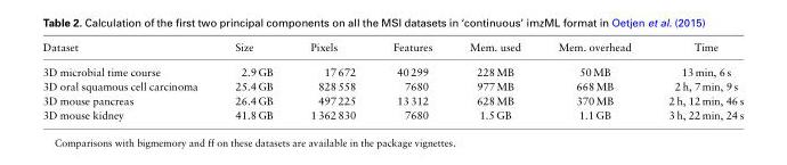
<table><thead><tr><td>Dataset</td><td>Size</td><td>Pixels</td><td>Features</td><td>Mem. used</td><td>Mem. overhead</td><td>Time</td></tr></thead><tbody><tr><td>3D microbial time course</td><td>2.9 GB</td><td>17 672</td><td>40 299</td><td>228 MB</td><td>50 MB</td><td>13 min, 6 s</td></tr><tr><td>3D oral squamous cell carcinoma</td><td>25.4 GB</td><td>828 558</td><td>7680</td><td>977 MB</td><td>668 MB</td><td>2 h, 7 min, 9 s</td></tr><tr><td>3D mouse pancreas</td><td>26.4 GB</td><td>497 225</td><td>13 312</td><td>628 MB</td><td>370 MB</td><td>2 h, 12 min, 46 s</td></tr><tr><td>3D mouse kidney</td><td>41.8 GB</td><td>1 362 830</td><td>7680</td><td>1.5 GB</td><td>1.1 GB</td><td>3 h, 22 min, 24 s</td></tr></tbody></table>